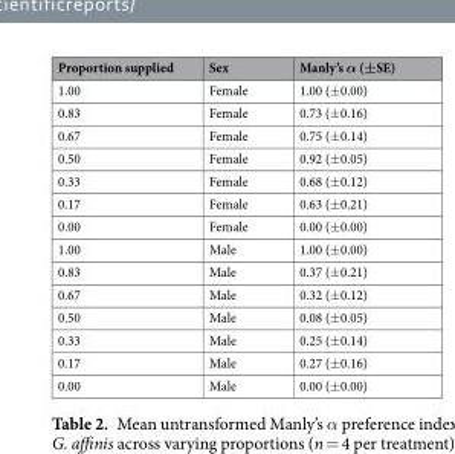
<table><thead><tr><td>Proportion supplied</td><td>Sex</td><td>Manly’s α (±SE)</td></tr></thead><tbody><tr><td>1.00</td><td>Female</td><td>1.00 (±0.00)</td></tr><tr><td>0.83</td><td>Female</td><td>0.73 (±0.16)</td></tr><tr><td>0.67</td><td>Female</td><td>0.75 (±0.14)</td></tr><tr><td>0.50</td><td>Female</td><td>0.92 (±0.05)</td></tr><tr><td>0.33</td><td>Female</td><td>0.68 (±0.12)</td></tr><tr><td>0.17</td><td>Female</td><td>0.63 (±0.21)</td></tr><tr><td>0.00</td><td>Female</td><td>0.00 (±0.00)</td></tr><tr><td>1.00</td><td>Male</td><td>1.00 (±0.00)</td></tr><tr><td>0.83</td><td>Male</td><td>0.37 (±0.21)</td></tr><tr><td>0.67</td><td>Male</td><td>0.32 (±0.12)</td></tr><tr><td>0.50</td><td>Male</td><td>0.08 (±0.05)</td></tr><tr><td>0.33</td><td>Male</td><td>0.25 (±0.14)</td></tr><tr><td>0.17</td><td>Male</td><td>0.27 (±0.16)</td></tr><tr><td>0.00</td><td>Male</td><td>0.00 (±0.00)</td></tr></tbody></table>